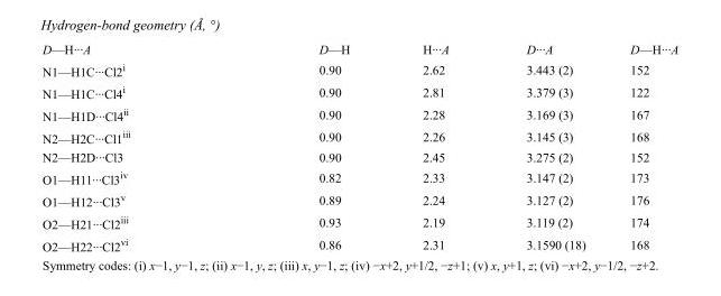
<table><tbody><tr><td>D—H···A</td><td>D—H</td><td>H···A</td><td>D···A</td><td>D—H···A</td></tr><tr><td>N1—H1C···Cl2<sup>i</sup></td><td>0.90</td><td>2.62</td><td>3.443 (2)</td><td>152</td></tr><tr><td>N1—H1C···Cl4<sup>i</sup></td><td>0.90</td><td>2.81</td><td>3.379 (3)</td><td>122</td></tr><tr><td>N1—H1D···Cl4<sup>ii</sup></td><td>0.90</td><td>2.28</td><td>3.169 (3)</td><td>167</td></tr><tr><td>N2—H2C···Cl1<sup>iii</sup></td><td>0.90</td><td>2.26</td><td>3.145 (3)</td><td>168</td></tr><tr><td>N2—H2D···Cl3</td><td>0.90</td><td>2.45</td><td>3.275 (2)</td><td>152</td></tr><tr><td>O1—H11···Cl3<sup>iv</sup></td><td>0.82</td><td>2.33</td><td>3.147 (2)</td><td>173</td></tr><tr><td>O1—H12···Cl3<sup>v</sup></td><td>0.89</td><td>2.24</td><td>3.127 (2)</td><td>176</td></tr><tr><td>O2—H21···Cl2<sup>iii</sup></td><td>0.93</td><td>2.19</td><td>3.119 (2)</td><td>174</td></tr><tr><td>O2—H22···Cl2<sup>vi</sup></td><td>0.86</td><td>2.31</td><td>3.1590 (18)</td><td>168</td></tr></tbody></table>